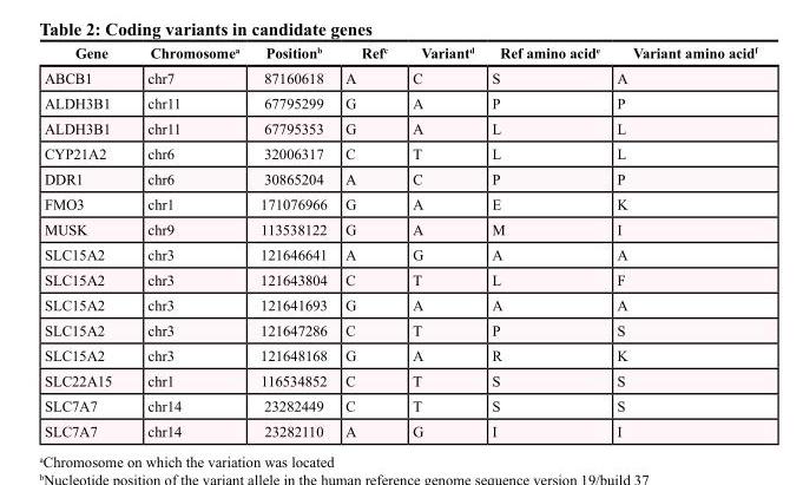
<table><thead><tr><td>Gene</td><td>Chromosome<sup>a</sup></td><td>Position<sup>b</sup></td><td>Ref<sup>c</sup></td><td>Variant<sup>d</sup></td><td>Ref amino acid<sup>e</sup></td><td>Variant amino acid<sup>f</sup></td></tr></thead><tbody><tr><td>ABCB1</td><td>chr7</td><td>87160618</td><td>A</td><td>C</td><td>S</td><td>A</td></tr><tr><td>ALDH3B1</td><td>chr11</td><td>67795299</td><td>G</td><td>A</td><td>P</td><td>P</td></tr><tr><td>ALDH3B1</td><td>chr11</td><td>67795353</td><td>G</td><td>A</td><td>L</td><td>L</td></tr><tr><td>CYP21A2</td><td>chr6</td><td>32006317</td><td>C</td><td>T</td><td>L</td><td>L</td></tr><tr><td>DDR1</td><td>chr6</td><td>30865204</td><td>A</td><td>C</td><td>P</td><td>P</td></tr><tr><td>FMO3</td><td>chr1</td><td>171076966</td><td>G</td><td>A</td><td>E</td><td>K</td></tr><tr><td>MUSK</td><td>chr9</td><td>113538122</td><td>G</td><td>A</td><td>M</td><td>I</td></tr><tr><td>SLC15A2</td><td>chr3</td><td>121646641</td><td>A</td><td>G</td><td>A</td><td>A</td></tr><tr><td>SLC15A2</td><td>chr3</td><td>121643804</td><td>C</td><td>T</td><td>L</td><td>F</td></tr><tr><td>SLC15A2</td><td>chr3</td><td>121641693</td><td>G</td><td>A</td><td>A</td><td>A</td></tr><tr><td>SLC15A2</td><td>chr3</td><td>121647286</td><td>C</td><td>T</td><td>P</td><td>S</td></tr><tr><td>SLC15A2</td><td>chr3</td><td>121648168</td><td>G</td><td>A</td><td>R</td><td>K</td></tr><tr><td>SLC22A15</td><td>chr1</td><td>116534852</td><td>C</td><td>T</td><td>S</td><td>S</td></tr><tr><td>SLC7A7</td><td>chr14</td><td>23282449</td><td>C</td><td>T</td><td>S</td><td>S</td></tr><tr><td>SLC7A7</td><td>chr14</td><td>23282110</td><td>A</td><td>G</td><td>I</td><td>I</td></tr></tbody></table>